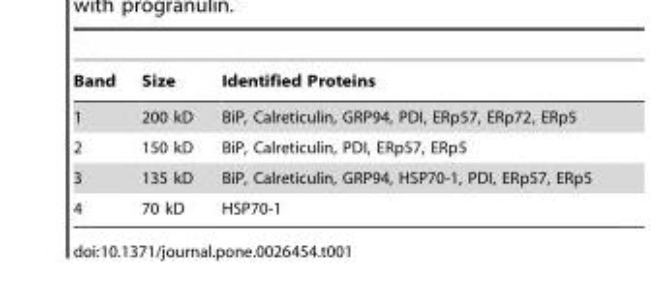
<table><thead><tr><td>Band</td><td>Size</td><td>Identified Proteins</td></tr></thead><tbody><tr><td>1</td><td>200 kD</td><td>BiP, Calreticulin, GRP94, PDI, ERp57, ERp72, ERp5</td></tr><tr><td>2</td><td>150 kD</td><td>BiP, Calreticulin, PDI, ERp57, ERp5</td></tr><tr><td>3</td><td>135 kD</td><td>BiP, Calreticulin, GRP94, HSP70-1, PDI, ERp57, ERp5</td></tr><tr><td>4</td><td>70 kD</td><td>HSP70-1</td></tr></tbody></table>